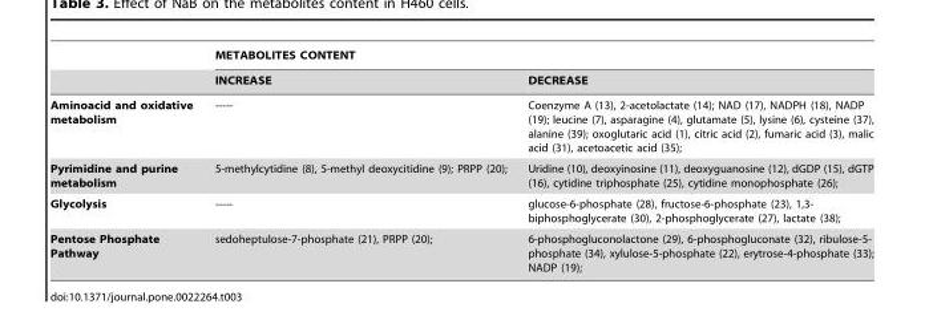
<table><thead><tr><td rowspan="2"></td><td colspan="2">METABOLITES CONTENT</td></tr><tr><td>INCREASE</td><td>DECREASE</td></tr></thead><tbody><tr><td>Aminoacid and oxidative metabolism</td><td>-----</td><td>Coenzyme A (13), 2-acetolactate (14); NAD (17), NADPH (18), NADP (19); leucine (7), asparagine (4), glutamate (5), lysine (6), cysteine (37), alanine (39); oxoglutaric acid (1), citric acid (2), fumaric acid (3), malic acid (31), acetoacetic acid (35);</td></tr><tr><td>Pyrimidine and purine metabolism</td><td>5-methylcytidine (8), 5-methyl deoxycitidine (9); PRPP (20);</td><td>Uridine (10), deoxyinosine (11), deoxyguanosine (12), dGDP (15), dGTP (16), cytidine triphosphate (25), cytidine monophosphate (26);</td></tr><tr><td>Glycolysis</td><td>-----</td><td>glucose-6-phosphate (28), fructose-6-phosphate (23), 1,3- biphosphoglycerate (30), 2-phosphoglycerate (27), lactate (38);</td></tr><tr><td>Pentose Phosphate Pathway</td><td>sedoheptulose-7-phosphate (21), PRPP (20);</td><td>6-phosphogluconolactone (29), 6-phosphogluconate (32), ribulose-5- phosphate (34), xylulose-5-phosphate (22), erytrose-4-phosphate (33); NADP (19);</td></tr></tbody></table>